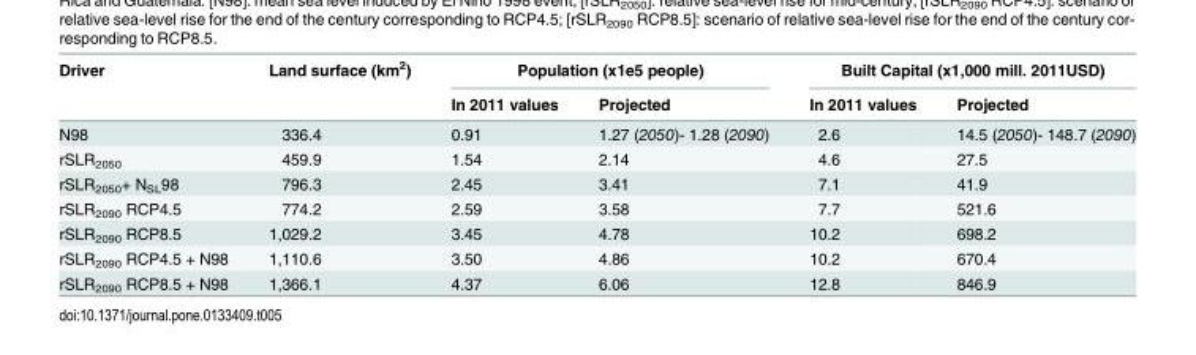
<table><thead><tr><td rowspan="2">Driver</td><td rowspan="2">Land surface (km<sup>2</sup>)</td><td colspan="2">Population (x1e5 people)</td><td colspan="2">Built Capital (x1,000 mill. 2011USD)</td></tr><tr><td>In 2011 values</td><td>Projected</td><td>In 2011 values</td><td>Projected</td></tr></thead><tbody><tr><td>N98</td><td>336.4</td><td>0.91</td><td>1.27 (2050)- 1.28 (2090)</td><td>2.6</td><td>14.5 (2050)- 148.7 (2090)</td></tr><tr><td>rSLR<sub>2050</sub></td><td>459.9</td><td>1.54</td><td>2.14</td><td>4.6</td><td>27.5</td></tr><tr><td>rSLR<sub>2050</sub>+ N<sub>SL</sub>98</td><td>796.3</td><td>2.45</td><td>3.41</td><td>7.1</td><td>41.9</td></tr><tr><td>rSLR<sub>2090</sub> RCP4.5</td><td>774.2</td><td>2.59</td><td>3.58</td><td>7.7</td><td>521.6</td></tr><tr><td>rSLR<sub>2090</sub> RCP8.5</td><td>1,029.2</td><td>3.45</td><td>4.78</td><td>10.2</td><td>698.2</td></tr><tr><td>rSLR<sub>2090</sub> RCP4.5 + N98</td><td>1,110.6</td><td>3.50</td><td>4.86</td><td>10.2</td><td>670.4</td></tr><tr><td>rSLR<sub>2090</sub> RCP8.5 + N98</td><td>1,366.1</td><td>4.37</td><td>6.06</td><td>12.8</td><td>846.9</td></tr></tbody></table>